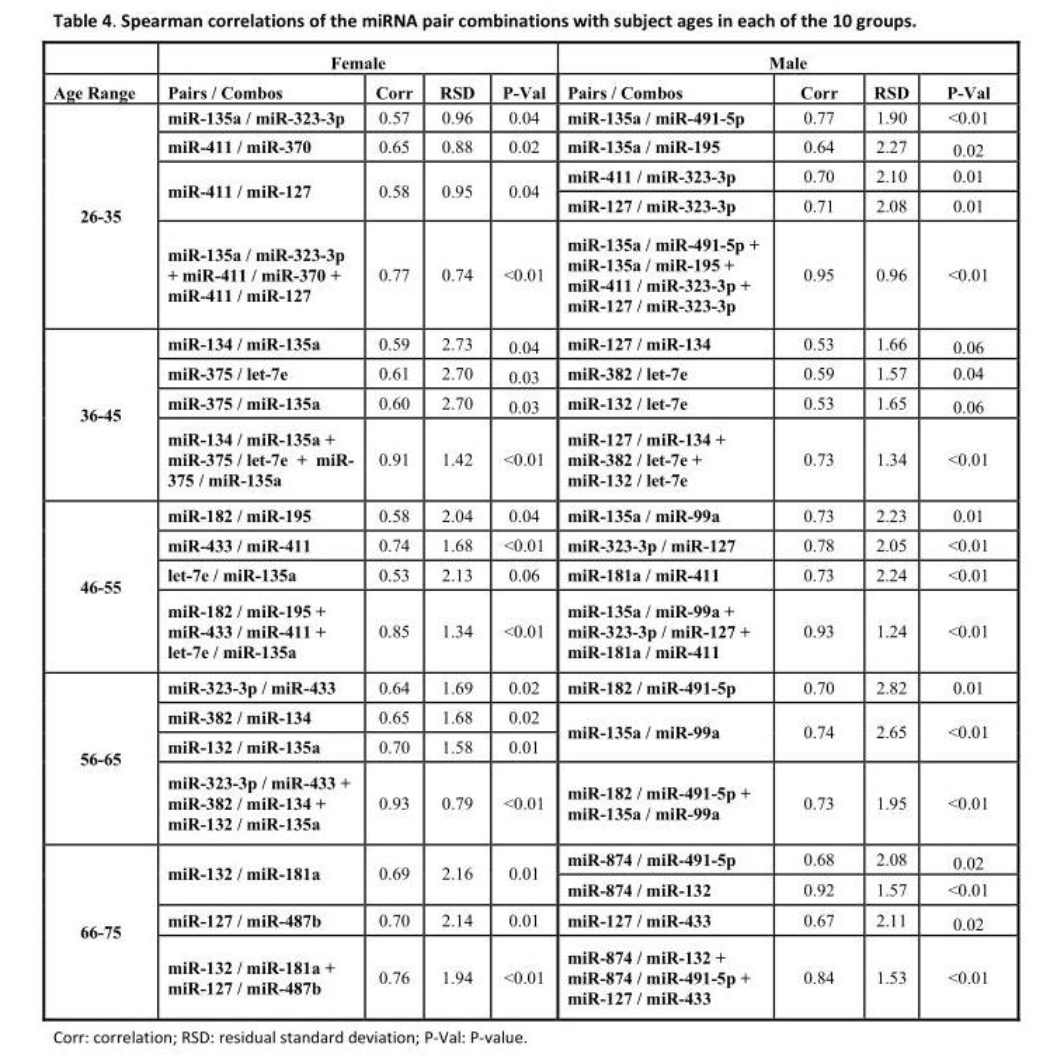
<table><thead><tr><td rowspan="2">Age Range</td><td colspan="4">Female</td><td colspan="4">Male</td></tr><tr><td>Pairs / Combos</td><td>Corr</td><td>RSD</td><td>P-Val</td><td>Pairs / Combos</td><td>Corr</td><td>RSD</td><td>P-Val</td></tr></thead><tbody><tr><td rowspan="5">26-35</td><td>miR-135a / miR-323-3p</td><td>0.57</td><td>0.96</td><td>0.04</td><td>miR-135a / miR-491-5p</td><td>0.77</td><td>1.90</td><td>&lt;0.01</td></tr><tr><td>miR-411 / miR-370</td><td>0.65</td><td>0.88</td><td>0.02</td><td>miR-135a / miR-195</td><td>0.64</td><td>2.27</td><td>0.02</td></tr><tr><td rowspan="2">miR-411 / miR-127</td><td rowspan="2">0.58</td><td rowspan="2">0.95</td><td rowspan="2">0.04</td><td>miR-411 / miR-323-3p</td><td>0.70</td><td>2.10</td><td>0.01</td></tr><tr><td>miR-127 / miR-323-3p</td><td>0.71</td><td>2.08</td><td>0.01</td></tr><tr><td>miR-135a / miR-323-3p + miR-411 / miR-370 + miR-411 / miR-127</td><td>0.77</td><td>0.74</td><td>&lt;0.01</td><td>miR-135a / miR-491-5p + miR-135a / miR-195 + miR-411 / miR-323-3p + miR-127 / miR-323-3p</td><td>0.95</td><td>0.96</td><td>&lt;0.01</td></tr><tr><td rowspan="4">36-45</td><td>miR-134 / miR-135a</td><td>0.59</td><td>2.73</td><td>0.04</td><td>miR-127 / miR-134</td><td>0.53</td><td>1.66</td><td>0.06</td></tr><tr><td>miR-375 / let-7e</td><td>0.61</td><td>2.70</td><td>0.03</td><td>miR-382 / let-7e</td><td>0.59</td><td>1.57</td><td>0.04</td></tr><tr><td>miR-375 / miR-135a</td><td>0.60</td><td>2.70</td><td>0.03</td><td>miR-132 / let-7e</td><td>0.53</td><td>1.65</td><td>0.06</td></tr><tr><td>miR-134 / miR-135a + miR-375 / let-7e + miR- 375 / miR-135a</td><td>0.91</td><td>1.42</td><td>&lt;0.01</td><td>miR-127 / miR-134 + miR-382 / let-7e + miR-132 / let-7e</td><td>0.73</td><td>1.34</td><td>&lt;0.01</td></tr><tr><td rowspan="4">46-55</td><td>miR-182 / miR-195</td><td>0.58</td><td>2.04</td><td>0.04</td><td>miR-135a / miR-99a</td><td>0.73</td><td>2.23</td><td>0.01</td></tr><tr><td>miR-433 / miR-411</td><td>0.74</td><td>1.68</td><td>&lt;0.01</td><td>miR-323-3p / miR-127</td><td>0.78</td><td>2.05</td><td>&lt;0.01</td></tr><tr><td>let-7e / miR-135a</td><td>0.53</td><td>2.13</td><td>0.06</td><td>miR-181a / miR-411</td><td>0.73</td><td>2.24</td><td>&lt;0.01</td></tr><tr><td>miR-182 / miR-195 + miR-433 / miR-411 + let-7e / miR-135a</td><td>0.85</td><td>1.34</td><td>&lt;0.01</td><td>miR-135a / miR-99a + miR-323-3p / miR-127 + miR-181a / miR-411</td><td>0.93</td><td>1.24</td><td>&lt;0.01</td></tr><tr><td rowspan="4">56-65</td><td>miR-323-3p / miR-433</td><td>0.64</td><td>1.69</td><td>0.02</td><td>miR-182 / miR-491-5p</td><td>0.70</td><td>2.82</td><td>0.01</td></tr><tr><td>miR-382 / miR-134</td><td>0.65</td><td>1.68</td><td>0.02</td><td rowspan="2">miR-135a / miR-99a</td><td rowspan="2">0.74</td><td rowspan="2">2.65</td><td rowspan="2">&lt;0.01</td></tr><tr><td>miR-132 / miR-135a</td><td>0.70</td><td>1.58</td><td>0.01</td></tr><tr><td>miR-323-3p / miR-433 + miR-382 / miR-134 + miR-132 / miR-135a</td><td>0.93</td><td>0.79</td><td>&lt;0.01</td><td>miR-182 / miR-491-5p + miR-135a / miR-99a</td><td>0.73</td><td>1.95</td><td>&lt;0.01</td></tr><tr><td rowspan="4">66-75</td><td rowspan="2">miR-132 / miR-181a</td><td rowspan="2">0.69</td><td rowspan="2">2.16</td><td rowspan="2">0.01</td><td>miR-874 / miR-491-5p</td><td>0.68</td><td>2.08</td><td>0.02</td></tr><tr><td>miR-874 / miR-132</td><td>0.92</td><td>1.57</td><td>&lt;0.01</td></tr><tr><td>miR-127 / miR-487b</td><td>0.70</td><td>2.14</td><td>0.01</td><td>miR-127 / miR-433</td><td>0.67</td><td>2.11</td><td>0.02</td></tr><tr><td>miR-132 / miR-181a + miR-127 / miR-487b</td><td>0.76</td><td>1.94</td><td>&lt;0.01</td><td>miR-874 / miR-132 + miR-874 / miR-491-5p + miR-127 / miR-433</td><td>0.84</td><td>1.53</td><td>&lt;0.01</td></tr></tbody></table>